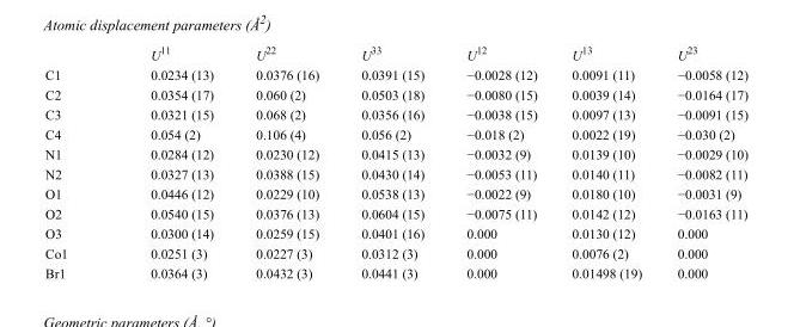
<table><thead><tr><td></td><td>U<sup>11</sup></td><td>U<sup>22</sup></td><td>U<sup>33</sup></td><td>U<sup>12</sup></td><td>U<sup>13</sup></td><td>U<sup>23</sup></td></tr></thead><tbody><tr><td>C1</td><td>0.0234 (13)</td><td>0.0376 (16)</td><td>0.0391 (15)</td><td>−0.0028 (12)</td><td>0.0091 (11)</td><td>−0.0058 (12)</td></tr><tr><td>C2</td><td>0.0354 (17)</td><td>0.060 (2)</td><td>0.0503 (18)</td><td>−0.0080 (15)</td><td>0.0039 (14)</td><td>−0.0164 (17)</td></tr><tr><td>C3</td><td>0.0321 (15)</td><td>0.068 (2)</td><td>0.0356 (16)</td><td>−0.0038 (15)</td><td>0.0097 (13)</td><td>−0.0091 (15)</td></tr><tr><td>C4</td><td>0.054 (2)</td><td>0.106 (4)</td><td>0.056 (2)</td><td>−0.018 (2)</td><td>0.0022 (19)</td><td>−0.030 (2)</td></tr><tr><td>N1</td><td>0.0284 (12)</td><td>0.0230 (12)</td><td>0.0415 (13)</td><td>−0.0032 (9)</td><td>0.0139 (10)</td><td>−0.0029 (10)</td></tr><tr><td>N2</td><td>0.0327 (13)</td><td>0.0388 (15)</td><td>0.0430 (14)</td><td>−0.0053 (11)</td><td>0.0140 (11)</td><td>−0.0082 (11)</td></tr><tr><td>O1</td><td>0.0446 (12)</td><td>0.0229 (10)</td><td>0.0538 (13)</td><td>−0.0022 (9)</td><td>0.0180 (10)</td><td>−0.0031 (9)</td></tr><tr><td>O2</td><td>0.0540 (15)</td><td>0.0376 (13)</td><td>0.0604 (15)</td><td>−0.0075 (11)</td><td>0.0142 (12)</td><td>−0.0163 (11)</td></tr><tr><td>O3</td><td>0.0300 (14)</td><td>0.0259 (15)</td><td>0.0401 (16)</td><td>0.000</td><td>0.0130 (12)</td><td>0.000</td></tr><tr><td>Co1</td><td>0.0251 (3)</td><td>0.0227 (3)</td><td>0.0312 (3)</td><td>0.000</td><td>0.0076 (2)</td><td>0.000</td></tr><tr><td>Br1</td><td>0.0364 (3)</td><td>0.0432 (3)</td><td>0.0441 (3)</td><td>0.000</td><td>0.01498 (19)</td><td>0.000</td></tr></tbody></table>